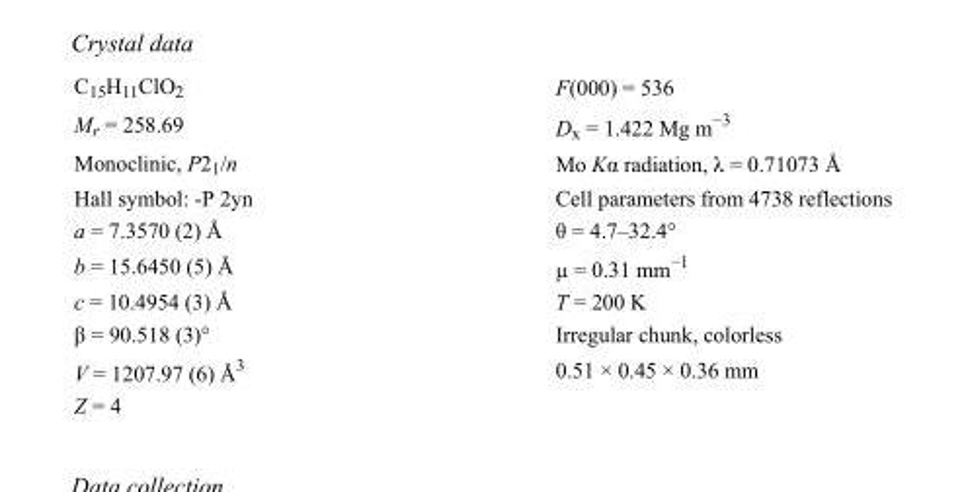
<table><tbody><tr><td>C<sub>15</sub>H<sub>11</sub>ClO<sub>2</sub></td><td>F(000) = 536</td></tr><tr><td>M<sub>r</sub> = 258.69</td><td>D<sub>x</sub> = 1.422 Mg m<sup>−3</sup></td></tr><tr><td>Monoclinic, P2<sub>1</sub>/n</td><td>Mo Kα radiation, λ = 0.71073 Å</td></tr><tr><td>Hall symbol: -P 2yn</td><td>Cell parameters from 4738 reflections</td></tr><tr><td>a = 7.3570 (2) Å</td><td>θ = 4.7–32.4°</td></tr><tr><td>b = 15.6450 (5) Å</td><td>µ = 0.31 mm<sup>−1</sup></td></tr><tr><td>c = 10.4954 (3) Å</td><td>T = 200 K</td></tr><tr><td>β = 90.518 (3)°</td><td>Irregular chunk, colorless</td></tr><tr><td>V = 1207.97 (6) Å<sup>3</sup></td><td>0.51 × 0.45 × 0.36 mm</td></tr><tr><td>Z = 4</td><td></td></tr></tbody></table>